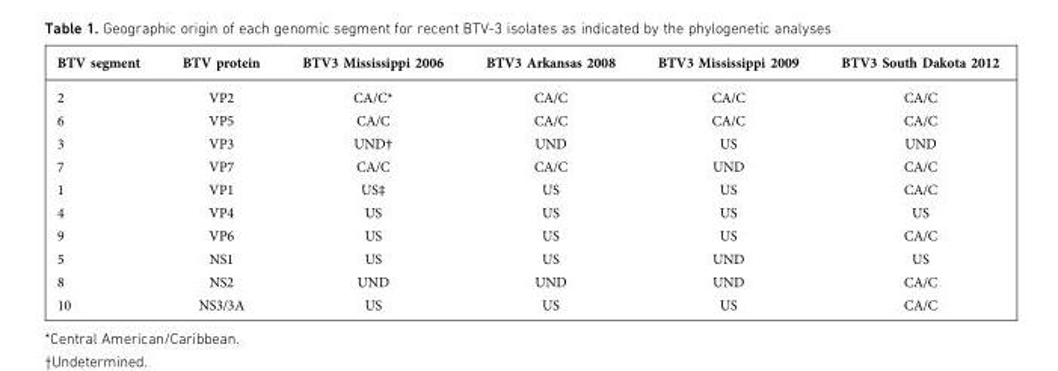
<table><thead><tr><td>BTV segment</td><td>BTV protein</td><td>BTV3 Mississippi 2006</td><td>BTV3 Arkansas 2008</td><td>BTV3 Mississippi 2009</td><td>BTV3 South Dakota 2012</td></tr></thead><tbody><tr><td>2</td><td>VP2</td><td>CA/C*</td><td>CA/C</td><td>CA/C</td><td>CA/C</td></tr><tr><td>6</td><td>VP5</td><td>CA/C</td><td>CA/C</td><td>CA/C</td><td>CA/C</td></tr><tr><td>3</td><td>VP3</td><td>UND†</td><td>UND</td><td>US</td><td>UND</td></tr><tr><td>7</td><td>VP7</td><td>CA/C</td><td>CA/C</td><td>UND</td><td>CA/C</td></tr><tr><td>1</td><td>VP1</td><td>US‡</td><td>US</td><td>US</td><td>CA/C</td></tr><tr><td>4</td><td>VP4</td><td>US</td><td>US</td><td>US</td><td>US</td></tr><tr><td>9</td><td>VP6</td><td>US</td><td>US</td><td>US</td><td>CA/C</td></tr><tr><td>5</td><td>NS1</td><td>US</td><td>US</td><td>UND</td><td>US</td></tr><tr><td>8</td><td>NS2</td><td>UND</td><td>UND</td><td>UND</td><td>CA/C</td></tr><tr><td>10</td><td>NS3/3A</td><td>US</td><td>US</td><td>US</td><td>CA/C</td></tr></tbody></table>